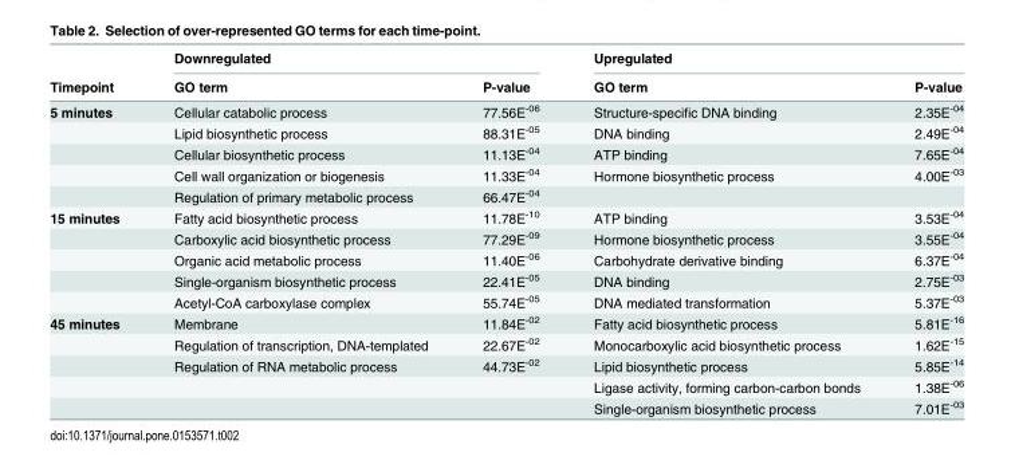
<table><thead><tr><td rowspan="2">Timepoint</td><td colspan="2">Downregulated</td><td colspan="2">Upregulated</td></tr><tr><td>GO term</td><td>P-value</td><td>GO term</td><td>P-value</td></tr></thead><tbody><tr><td rowspan="5">5 minutes</td><td>Cellular catabolic process</td><td>77.56E<sup>-06</sup></td><td>Structure-specific DNA binding</td><td>2.35E<sup>-04</sup></td></tr><tr><td>Lipid biosynthetic process</td><td>88.31E<sup>-05</sup></td><td>DNA binding</td><td>2.49E<sup>-04</sup></td></tr><tr><td>Cellular biosynthetic process</td><td>11.13E<sup>-04</sup></td><td>ATP binding</td><td>7.65E<sup>-04</sup></td></tr><tr><td>Cell wall organization or biogenesis</td><td>11.33E<sup>-04</sup></td><td>Hormone biosynthetic process</td><td>4.00E<sup>-03</sup></td></tr><tr><td>Regulation of primary metabolic process</td><td>66.47E<sup>-04</sup></td><td></td><td></td></tr><tr><td rowspan="5">15 minutes</td><td>Fatty acid biosynthetic process</td><td>11.78E<sup>-10</sup></td><td>ATP binding</td><td>3.53E<sup>-04</sup></td></tr><tr><td>Carboxylic acid biosynthetic process</td><td>77.29E<sup>-09</sup></td><td>Hormone biosynthetic process</td><td>3.55E<sup>-04</sup></td></tr><tr><td>Organic acid metabolic process</td><td>11.40E<sup>-06</sup></td><td>Carbohydrate derivative binding</td><td>6.37E<sup>-04</sup></td></tr><tr><td>Single-organism biosynthetic process</td><td>22.41E<sup>-05</sup></td><td>DNA binding</td><td>2.75E<sup>-03</sup></td></tr><tr><td>Acetyl-CoA carboxylase complex</td><td>55.74E<sup>-05</sup></td><td>DNA mediated transformation</td><td>5.37E<sup>-03</sup></td></tr><tr><td rowspan="5">45 minutes</td><td>Membrane</td><td>11.84E<sup>-02</sup></td><td>Fatty acid biosynthetic process</td><td>5.81E<sup>-16</sup></td></tr><tr><td>Regulation of transcription, DNA-templated</td><td>22.67E<sup>-02</sup></td><td>Monocarboxylic acid biosynthetic process</td><td>1.62E<sup>-15</sup></td></tr><tr><td>Regulation of RNA metabolic process</td><td>44.73E<sup>-02</sup></td><td>Lipid biosynthetic process</td><td>5.85E<sup>-14</sup></td></tr><tr><td></td><td></td><td>Ligase activity, forming carbon-carbon bonds</td><td>1.38E<sup>-06</sup></td></tr><tr><td></td><td></td><td>Single-organism biosynthetic process</td><td>7.01E<sup>-03</sup></td></tr></tbody></table>